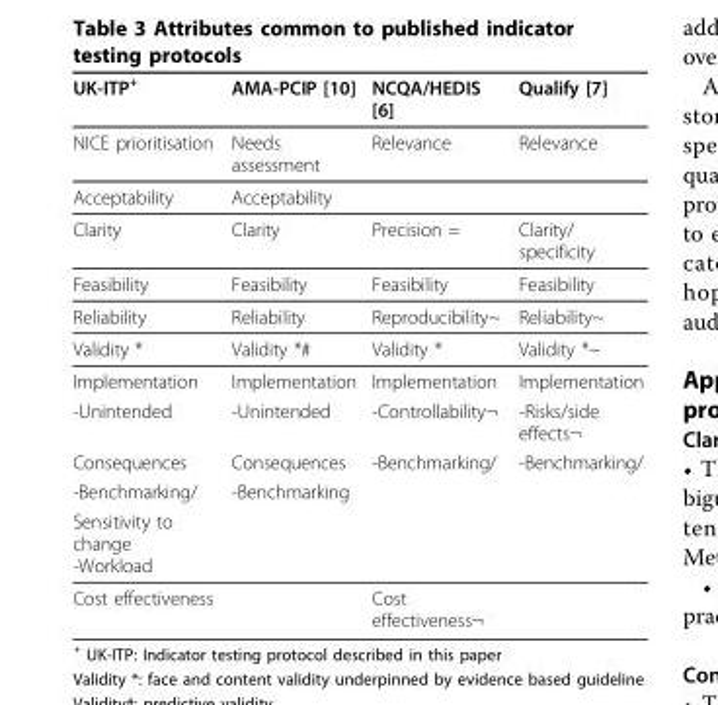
<table><thead><tr><td>UK-ITP<sup>+</sup></td><td>AMA-PCIP [10]</td><td>NCQA/HEDIS [6]</td><td>Qualify [7]</td></tr></thead><tbody><tr><td>NICE prioritisation</td><td>Needs assessment</td><td>Relevance</td><td>Relevance</td></tr><tr><td>Acceptability</td><td>Acceptability</td><td></td><td></td></tr><tr><td>Clarity</td><td>Clarity</td><td>Precision =</td><td>Clarity/ specificity</td></tr><tr><td>Feasibility</td><td>Feasibility</td><td>Feasibility</td><td>Feasibility</td></tr><tr><td>Reliability</td><td>Reliability</td><td>Reproducibility~</td><td>Reliability~</td></tr><tr><td>Validity *</td><td>Validity *#</td><td>Validity *</td><td>Validity *~</td></tr><tr><td>Implementation</td><td>Implementation</td><td>Implementation</td><td>Implementation</td></tr><tr><td>-Unintended</td><td>-Unintended</td><td>-Controllability¬</td><td>-Risks/side effects¬</td></tr><tr><td>Consequences</td><td>Consequences</td><td>-Benchmarking/</td><td>-Benchmarking/</td></tr><tr><td>-Benchmarking/</td><td>-Benchmarking</td><td></td><td></td></tr><tr><td colspan="4">Sensitivity to change -Workload</td></tr><tr><td>Cost effectiveness</td><td></td><td>Cost effectiveness¬</td><td></td></tr></tbody></table>